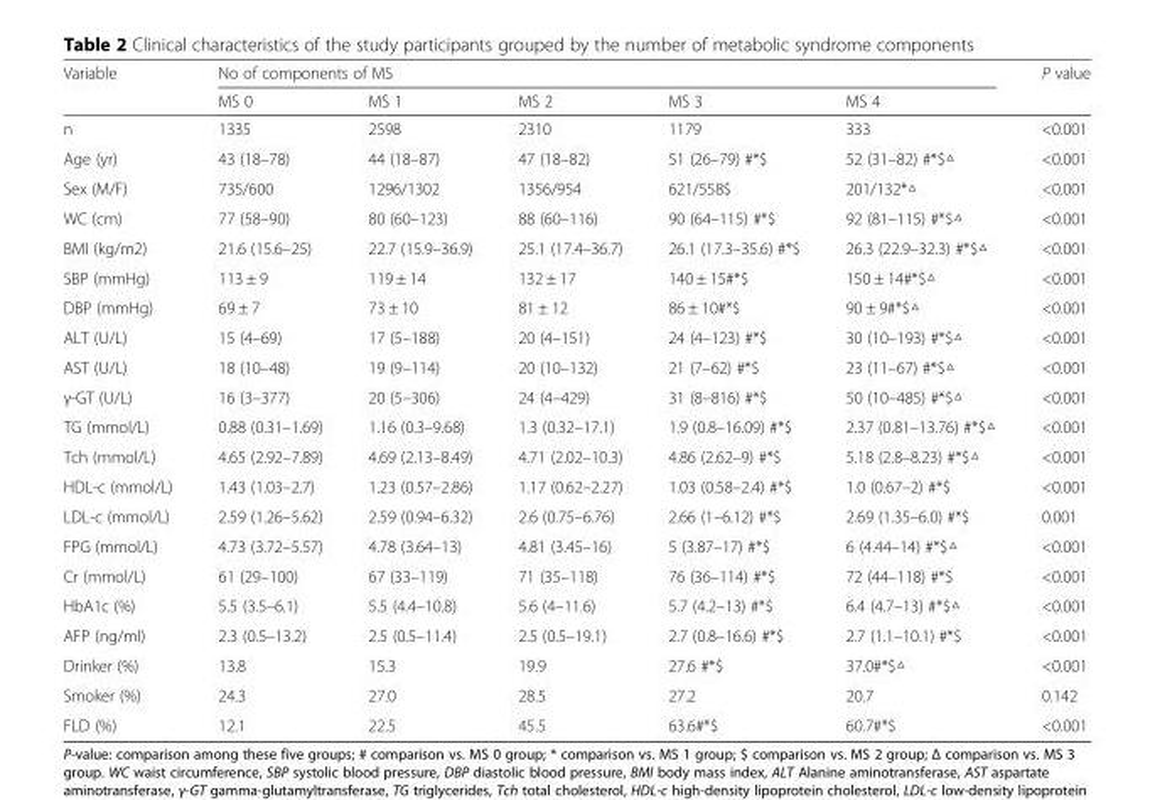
<table><thead><tr><td rowspan="2">Variable</td><td colspan="5">No of components of MS</td><td rowspan="2">P value</td></tr><tr><td>MS 0</td><td>MS 1</td><td>MS 2</td><td>MS 3</td><td>MS 4</td></tr></thead><tbody><tr><td>n</td><td>1335</td><td>2598</td><td>2310</td><td>1179</td><td>333</td><td>&lt;0.001</td></tr><tr><td>Age (yr)</td><td>43 (18–78)</td><td>44 (18–87)</td><td>47 (18–82)</td><td>51 (26–79) #*$</td><td>52 (31–82) #*$△</td><td>&lt;0.001</td></tr><tr><td>Sex (M/F)</td><td>735/600</td><td>1296/1302</td><td>1356/954</td><td>621/558$</td><td>201/132*△</td><td>&lt;0.001</td></tr><tr><td>WC (cm)</td><td>77 (58–90)</td><td>80 (60–123)</td><td>88 (60–116)</td><td>90 (64–115) #*$</td><td>92 (81–115) #*$△</td><td>&lt;0.001</td></tr><tr><td>BMI (kg/m2)</td><td>21.6 (15.6–25)</td><td>22.7 (15.9–36.9)</td><td>25.1 (17.4–36.7)</td><td>26.1 (17.3–35.6) #*$</td><td>26.3 (22.9–32.3) #*$△</td><td>&lt;0.001</td></tr><tr><td>SBP (mmHg)</td><td>113 ± 9</td><td>119 ± 14</td><td>132 ± 17</td><td>140 ± 15#*$</td><td>150 ± 14#*$△</td><td>&lt;0.001</td></tr><tr><td>DBP (mmHg)</td><td>69 ± 7</td><td>73 ± 10</td><td>81 ± 12</td><td>86 ± 10#*$</td><td>90 ± 9#*$△</td><td>&lt;0.001</td></tr><tr><td>ALT (U/L)</td><td>15 (4–69)</td><td>17 (5–188)</td><td>20 (4–151)</td><td>24 (4–123) #*$</td><td>30 (10–193) #*$△</td><td>&lt;0.001</td></tr><tr><td>AST (U/L)</td><td>18 (10–48)</td><td>19 (9–114)</td><td>20 (10–132)</td><td>21 (7–62) #*$</td><td>23 (11–67) #*$△</td><td>&lt;0.001</td></tr><tr><td>γ-GT (U/L)</td><td>16 (3–377)</td><td>20 (5–306)</td><td>24 (4–429)</td><td>31 (8–816) #*$</td><td>50 (10–485) #*$△</td><td>&lt;0.001</td></tr><tr><td>TG (mmol/L)</td><td>0.88 (0.31–1.69)</td><td>1.16 (0.3–9.68)</td><td>1.3 (0.32–17.1)</td><td>1.9 (0.8–16.09) #*$</td><td>2.37 (0.81–13.76) #*$△</td><td>&lt;0.001</td></tr><tr><td>Tch (mmol/L)</td><td>4.65 (2.92–7.89)</td><td>4.69 (2.13–8.49)</td><td>4.71 (2.02–10.3)</td><td>4.86 (2.62–9) #*$</td><td>5.18 (2.8–8.23) #*$△</td><td>&lt;0.001</td></tr><tr><td>HDL-c (mmol/L)</td><td>1.43 (1.03–2.7)</td><td>1.23 (0.57–2.86)</td><td>1.17 (0.62–2.27)</td><td>1.03 (0.58–2.4) #*$</td><td>1.0 (0.67–2) #*$</td><td>&lt;0.001</td></tr><tr><td>LDL-c (mmol/L)</td><td>2.59 (1.26–5.62)</td><td>2.59 (0.94–6.32)</td><td>2.6 (0.75–6.76)</td><td>2.66 (1–6.12) #*$</td><td>2.69 (1.35–6.0) #*$</td><td>0.001</td></tr><tr><td>FPG (mmol/L)</td><td>4.73 (3.72–5.57)</td><td>4.78 (3.64–13)</td><td>4.81 (3.45–16)</td><td>5 (3.87–17) #*$</td><td>6 (4.44–14) #*$△</td><td>&lt;0.001</td></tr><tr><td>Cr (mmol/L)</td><td>61 (29–100)</td><td>67 (33–119)</td><td>71 (35–118)</td><td>76 (36–114) #*$</td><td>72 (44–118) #*$</td><td>&lt;0.001</td></tr><tr><td>HbA1c (%)</td><td>5.5 (3.5–6.1)</td><td>5.5 (4.4–10.8)</td><td>5.6 (4–11.6)</td><td>5.7 (4.2–13) #*$</td><td>6.4 (4.7–13) #*$△</td><td>&lt;0.001</td></tr><tr><td>AFP (ng/ml)</td><td>2.3 (0.5–13.2)</td><td>2.5 (0.5–11.4)</td><td>2.5 (0.5–19.1)</td><td>2.7 (0.8–16.6) #*$</td><td>2.7 (1.1–10.1) #*$</td><td>&lt;0.001</td></tr><tr><td>Drinker (%)</td><td>13.8</td><td>15.3</td><td>19.9</td><td>27.6 #*$</td><td>37.0#*$△</td><td>&lt;0.001</td></tr><tr><td>Smoker (%)</td><td>24.3</td><td>27.0</td><td>28.5</td><td>27.2</td><td>20.7</td><td>0.142</td></tr><tr><td>FLD (%)</td><td>12.1</td><td>22.5</td><td>45.5</td><td>63.6#*$</td><td>60.7#*$</td><td>&lt;0.001</td></tr></tbody></table>